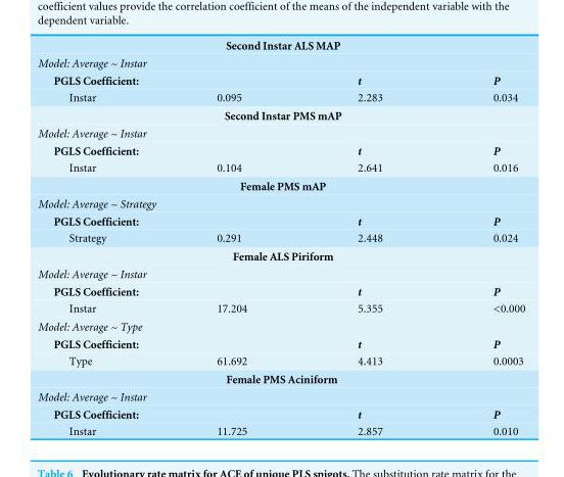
<table><tbody><tr><td colspan="4">Second Instar ALS MAP</td></tr><tr><td colspan="4">Model: Average ~ Instar</td></tr><tr><td colspan="2">PGLS Coefficient:</td><td>t</td><td>P</td></tr><tr><td>Instar</td><td>0.095</td><td>2.283</td><td>0.034</td></tr><tr><td colspan="4">Second Instar PMS mAP</td></tr><tr><td colspan="4">Model: Average ~ Instar</td></tr><tr><td colspan="2">PGLS Coefficient:</td><td>t</td><td>P</td></tr><tr><td>Instar</td><td>0.104</td><td>2.641</td><td>0.016</td></tr><tr><td colspan="4">Female PMS mAP</td></tr><tr><td colspan="4">Model: Average ~ Strategy</td></tr><tr><td colspan="2">PGLS Coefficient:</td><td>t</td><td>P</td></tr><tr><td>Strategy</td><td>0.291</td><td>2.448</td><td>0.024</td></tr><tr><td colspan="4">Female ALS Piriform</td></tr><tr><td colspan="4">Model: Average ~ Instar</td></tr><tr><td colspan="2">PGLS Coefficient:</td><td>t</td><td>P</td></tr><tr><td>Instar</td><td>17.204</td><td>5.355</td><td>&lt;0.000</td></tr><tr><td colspan="4">Model: Average ~ Type</td></tr><tr><td colspan="2">PGLS Coefficient:</td><td>t</td><td>P</td></tr><tr><td>Type</td><td>61.692</td><td>4.413</td><td>0.0003</td></tr><tr><td colspan="4">Female PMS Aciniform</td></tr><tr><td colspan="4">Model: Average ~ Instar</td></tr><tr><td colspan="2">PGLS Coefficient:</td><td>t</td><td>P</td></tr><tr><td>Instar</td><td>11.725</td><td>2.857</td><td>0.010</td></tr></tbody></table>